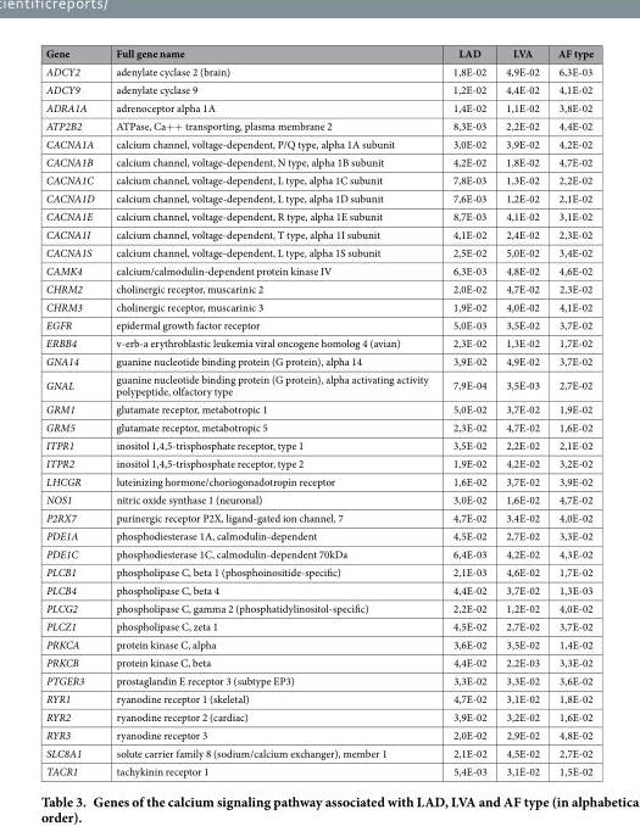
<table><thead><tr><td>Gene</td><td>Full gene name</td><td>LAD</td><td>LVA</td><td>AF type</td></tr></thead><tbody><tr><td>ADCY2</td><td>adenylate cyclase 2 (brain)</td><td>1,8E-02</td><td>4,9E-02</td><td>6,3E-03</td></tr><tr><td>ADCY9</td><td>adenylate cyclase 9</td><td>1,2E-02</td><td>4,4E-02</td><td>4,1E-02</td></tr><tr><td>ADRA1A</td><td>adrenoceptor alpha 1A</td><td>1,4E-02</td><td>1,1E-02</td><td>3,8E-02</td></tr><tr><td>ATP2B2</td><td>ATPase, Ca+ + transporting, plasma membrane 2</td><td>8,3E-03</td><td>2,2E-02</td><td>4,4E-02</td></tr><tr><td>CACNA1A</td><td>calcium channel, voltage-dependent, P/Q type, alpha 1A subunit</td><td>3,0E-02</td><td>3,9E-02</td><td>4,2E-02</td></tr><tr><td>CACNA1B</td><td>calcium channel, voltage-dependent, N type, alpha 1B subunit</td><td>4,2E-02</td><td>1,8E-02</td><td>4,7E-02</td></tr><tr><td>CACNA1C</td><td>calcium channel, voltage-dependent, L type, alpha 1C subunit</td><td>7,8E-03</td><td>1,3E-02</td><td>2,2E-02</td></tr><tr><td>CACNA1D</td><td>calcium channel, voltage-dependent, L type, alpha 1D subunit</td><td>7,6E-03</td><td>1,2E-02</td><td>2,1E-02</td></tr><tr><td>CACNA1E</td><td>calcium channel, voltage-dependent, R type, alpha 1E subunit</td><td>8,7E-03</td><td>4,1E-02</td><td>3,1E-02</td></tr><tr><td>CACNA1I</td><td>calcium channel, voltage-dependent, T type, alpha 1I subunit</td><td>4,1E-02</td><td>2,4E-02</td><td>2,3E-02</td></tr><tr><td>CACNA1S</td><td>calcium channel, voltage-dependent, L type, alpha 1S subunit</td><td>2,5E-02</td><td>5,0E-02</td><td>3,4E-02</td></tr><tr><td>CAMK4</td><td>calcium/calmodulin-dependent protein kinase IV</td><td>6,3E-03</td><td>4,8E-02</td><td>4,6E-02</td></tr><tr><td>CHRM2</td><td>cholinergic receptor, muscarinic 2</td><td>2,0E-02</td><td>4,7E-02</td><td>2,3E-02</td></tr><tr><td>CHRM3</td><td>cholinergic receptor, muscarinic 3</td><td>1,9E-02</td><td>4,0E-02</td><td>4,1E-02</td></tr><tr><td>EGFR</td><td>epidermal growth factor receptor</td><td>5,0E-03</td><td>3,5E-02</td><td>3,7E-02</td></tr><tr><td>ERBB4</td><td>v-erb-a erythroblastic leukemia viral oncogene homolog 4 (avian)</td><td>2,3E-02</td><td>1,3E-02</td><td>1,7E-02</td></tr><tr><td>GNA14</td><td>guanine nucleotide binding protein (G protein), alpha 14</td><td>3,9E-02</td><td>4,9E-02</td><td>3,7E-02</td></tr><tr><td>GNAL</td><td>guanine nucleotide binding protein (G protein), alpha activating activity polypeptide, olfactory type</td><td>7,9E-04</td><td>3,5E-03</td><td>2,7E-02</td></tr><tr><td>GRM1</td><td>glutamate receptor, metabotropic 1</td><td>5,0E-02</td><td>3,7E-02</td><td>1,9E-02</td></tr><tr><td>GRM5</td><td>glutamate receptor, metabotropic 5</td><td>2,3E-02</td><td>4,7E-02</td><td>1,6E-02</td></tr><tr><td>ITPR1</td><td>inositol 1,4,5-trisphosphate receptor, type 1</td><td>3,5E-02</td><td>2,2E-02</td><td>2,1E-02</td></tr><tr><td>ITPR2</td><td>inositol 1,4,5-trisphosphate receptor, type 2</td><td>1,9E-02</td><td>4,2E-02</td><td>3,2E-02</td></tr><tr><td>LHCGR</td><td>luteinizing hormone/choriogonadotropin receptor</td><td>1,6E-02</td><td>3,7E-02</td><td>3,9E-02</td></tr><tr><td>NOS1</td><td>nitric oxide synthase 1 (neuronal)</td><td>3,0E-02</td><td>1,6E-02</td><td>4,7E-02</td></tr><tr><td>P2RX7</td><td>purinergic receptor P2X, ligand-gated ion channel, 7</td><td>4,7E-02</td><td>3,4E-02</td><td>4,0E-02</td></tr><tr><td>PDE1A</td><td>phosphodiesterase 1A, calmodulin-dependent</td><td>4,5E-02</td><td>2,7E-02</td><td>3,3E-02</td></tr><tr><td>PDE1C</td><td>phosphodiesterase 1C, calmodulin-dependent 70kDa</td><td>6,4E-03</td><td>4,2E-02</td><td>4,3E-02</td></tr><tr><td>PLCB1</td><td>phospholipase C, beta 1 (phosphoinositide-specific)</td><td>2,1E-03</td><td>4,6E-02</td><td>1,7E-02</td></tr><tr><td>PLCB4</td><td>phospholipase C, beta 4</td><td>4,4E-02</td><td>3,7E-02</td><td>1,3E-03</td></tr><tr><td>PLCG2</td><td>phospholipase C, gamma 2 (phosphatidylinositol-specific)</td><td>2,2E-02</td><td>1,2E-02</td><td>4,0E-02</td></tr><tr><td>PLCZ1</td><td>phospholipase C, zeta 1</td><td>4,5E-02</td><td>2,7E-02</td><td>3,7E-02</td></tr><tr><td>PRKCA</td><td>protein kinase C, alpha</td><td>3,6E-02</td><td>3,5E-02</td><td>1,4E-02</td></tr><tr><td>PRKCB</td><td>protein kinase C, beta</td><td>4,4E-02</td><td>2,2E-03</td><td>3,3E-02</td></tr><tr><td>PTGER3</td><td>prostaglandin E receptor 3 (subtype EP3)</td><td>3,3E-02</td><td>3,3E-02</td><td>3,6E-02</td></tr><tr><td>RYR1</td><td>ryanodine receptor 1 (skeletal)</td><td>4,7E-02</td><td>3,1E-02</td><td>1,8E-02</td></tr><tr><td>RYR2</td><td>ryanodine receptor 2 (cardiac)</td><td>3,9E-02</td><td>3,2E-02</td><td>1,6E-02</td></tr><tr><td>RYR3</td><td>ryanodine receptor 3</td><td>2,0E-02</td><td>2,9E-02</td><td>4,8E-02</td></tr><tr><td>SLC8A1</td><td>solute carrier family 8 (sodium/calcium exchanger), member 1</td><td>2,1E-02</td><td>4,5E-02</td><td>2,7E-02</td></tr><tr><td>TACR1</td><td>tachykinin receptor 1</td><td>5,4E-03</td><td>3,1E-02</td><td>1,5E-02</td></tr></tbody></table>